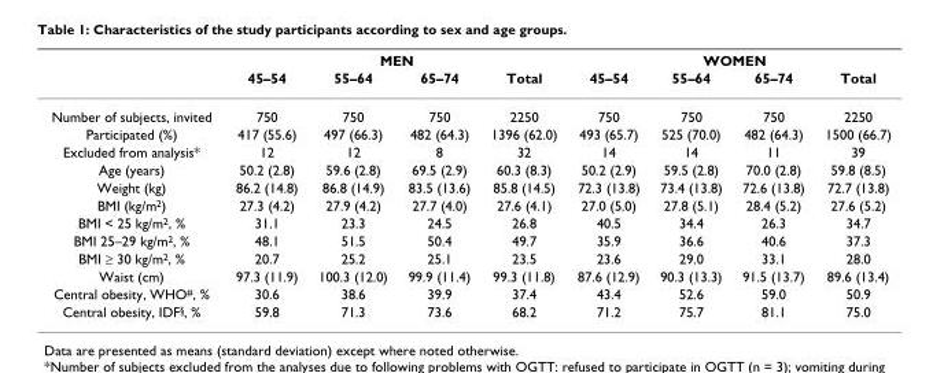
<table><thead><tr><td rowspan="2"></td><td colspan="4">MEN</td><td colspan="4">WOMEN</td></tr><tr><td>45–54</td><td>55–64</td><td>65–74</td><td>Total</td><td>45–54</td><td>55–64</td><td>65–74</td><td>Total</td></tr></thead><tbody><tr><td>Number of subjects, invited</td><td>750</td><td>750</td><td>750</td><td>2250</td><td>750</td><td>750</td><td>750</td><td>2250</td></tr><tr><td>Participated (%)</td><td>417 (55.6)</td><td>497 (66.3)</td><td>482 (64.3)</td><td>1396 (62.0)</td><td>493 (65.7)</td><td>525 (70.0)</td><td>482 (64.3)</td><td>1500 (66.7)</td></tr><tr><td>Excluded from analysis*</td><td>12</td><td>12</td><td>8</td><td>32</td><td>14</td><td>14</td><td>11</td><td>39</td></tr><tr><td>Age (years)</td><td>50.2 (2.8)</td><td>59.6 (2.8)</td><td>69.5 (2.9)</td><td>60.3 (8.3)</td><td>50.2 (2.9)</td><td>59.5 (2.8)</td><td>70.0 (2.8)</td><td>59.8 (8.5)</td></tr><tr><td>Weight (kg)</td><td>86.2 (14.8)</td><td>86.8 (14.9)</td><td>83.5 (13.6)</td><td>85.8 (14.5)</td><td>72.3 (13.8)</td><td>73.4 (13.8)</td><td>72.6 (13.8)</td><td>72.7 (13.8)</td></tr><tr><td>BMI (kg/m<sup>2</sup>)</td><td>27.3 (4.2)</td><td>27.9 (4.2)</td><td>27.7 (4.0)</td><td>27.6 (4.1)</td><td>27.0 (5.0)</td><td>27.8 (5.1)</td><td>28.4 (5.2)</td><td>27.6 (5.2)</td></tr><tr><td>BMI &lt; 25 kg/m<sup>2</sup>, %</td><td>31.1</td><td>23.3</td><td>24.5</td><td>26.8</td><td>40.5</td><td>34.4</td><td>26.3</td><td>34.7</td></tr><tr><td>BMI 25–29 kg/m<sup>2</sup>, %</td><td>48.1</td><td>51.5</td><td>50.4</td><td>49.7</td><td>35.9</td><td>36.6</td><td>40.6</td><td>37.3</td></tr><tr><td>BMI ≥ 30 kg/m<sup>2</sup>, %</td><td>20.7</td><td>25.2</td><td>25.1</td><td>23.5</td><td>23.6</td><td>29.0</td><td>33.1</td><td>28.0</td></tr><tr><td>Waist (cm)</td><td>97.3 (11.9)</td><td>100.3 (12.0)</td><td>99.9 (11.4)</td><td>99.3 (11.8)</td><td>87.6 (12.9)</td><td>90.3 (13.3)</td><td>91.5 (13.7)</td><td>89.6 (13.4)</td></tr><tr><td>Central obesity, WHO<sup>#</sup>, %</td><td>30.6</td><td>38.6</td><td>39.9</td><td>37.4</td><td>43.4</td><td>52.6</td><td>59.0</td><td>50.9</td></tr><tr><td>Central obesity, IDF<sup>§</sup>, %</td><td>59.8</td><td>71.3</td><td>73.6</td><td>68.2</td><td>71.2</td><td>75.7</td><td>81.1</td><td>75.0</td></tr></tbody></table>